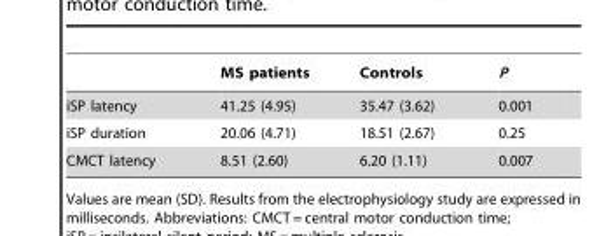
<table><thead><tr><td></td><td>MS patients</td><td>Controls</td><td>P</td></tr></thead><tbody><tr><td>iSP latency</td><td>41.25 (4.95)</td><td>35.47 (3.62)</td><td>0.001</td></tr><tr><td>iSP duration</td><td>20.06 (4.71)</td><td>18.51 (2.67)</td><td>0.25</td></tr><tr><td>CMCT latency</td><td>8.51 (2.60)</td><td>6.20 (1.11)</td><td>0.007</td></tr></tbody></table>